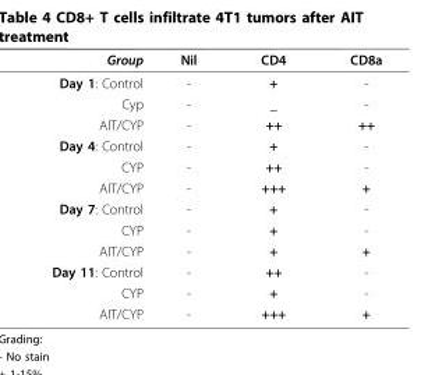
<table><thead><tr><td>Group</td><td>Nil</td><td>CD4</td><td>CD8a</td></tr></thead><tbody><tr><td>Day 1: Control</td><td>-</td><td>+</td><td>-</td></tr><tr><td>Cyp</td><td>-</td><td>_</td><td>-</td></tr><tr><td>AIT/CYP</td><td>-</td><td>++</td><td>++</td></tr><tr><td>Day 4: Control</td><td>-</td><td>+</td><td>-</td></tr><tr><td>CYP</td><td>-</td><td>++</td><td>-</td></tr><tr><td>AIT/CYP</td><td>-</td><td>+++</td><td>+</td></tr><tr><td>Day 7: Control</td><td>-</td><td>+</td><td>-</td></tr><tr><td>CYP</td><td>-</td><td>+</td><td>-</td></tr><tr><td>AIT/CYP</td><td>-</td><td>+</td><td>+</td></tr><tr><td>Day 11: Control</td><td>-</td><td>++</td><td>-</td></tr><tr><td>CYP</td><td>-</td><td>+</td><td>-</td></tr><tr><td>AIT/CYP</td><td>-</td><td>+++</td><td>+</td></tr></tbody></table>